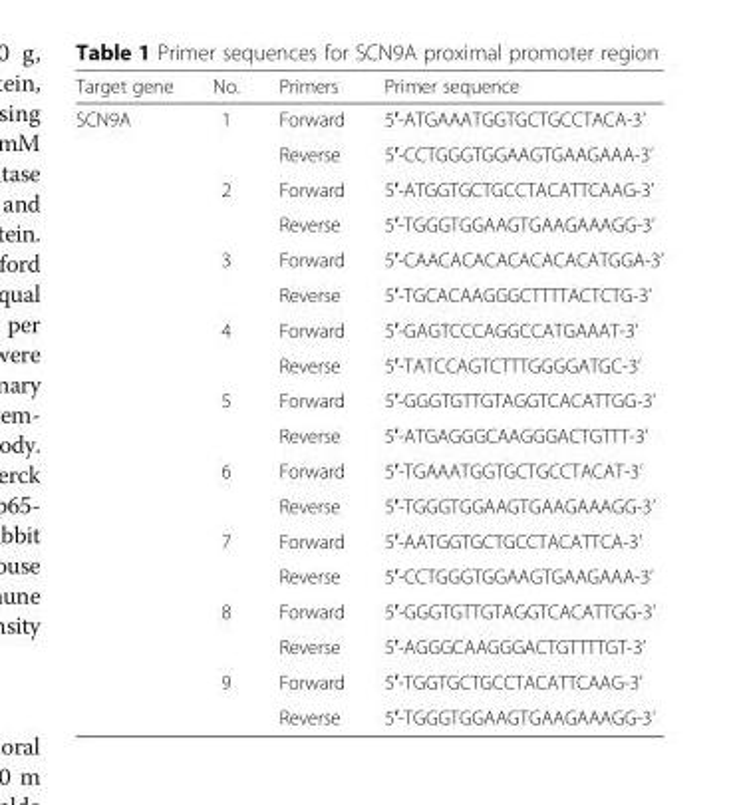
<table><thead><tr><td>Target gene</td><td>No.</td><td>Primers</td><td>Primer sequence</td></tr></thead><tbody><tr><td rowspan="18">SCN9A</td><td rowspan="2">1</td><td>Forward</td><td>5′-ATGAAATGGTGCTGCCTACA-3’</td></tr><tr><td>Reverse</td><td>5′-CCTGGGTGGAAGTGAAGAAA-3’</td></tr><tr><td rowspan="2">2</td><td>Forward</td><td>5′-ATGGTGCTGCCTACATTCAAG-3’</td></tr><tr><td>Reverse</td><td>5′-TGGGTGGAAGTGAAGAAAGG-3’</td></tr><tr><td rowspan="2">3</td><td>Forward</td><td>5′-CAACACACACACACACATGGA-3’</td></tr><tr><td>Reverse</td><td>5′-TGCACAAGGGCTTTTACTCTG-3’</td></tr><tr><td rowspan="2">4</td><td>Forward</td><td>5′-GAGTCCCAGGCCATGAAAT-3’</td></tr><tr><td>Reverse</td><td>5′-TATCCAGTCTTTGGGGATGC-3’</td></tr><tr><td rowspan="2">5</td><td>Forward</td><td>5′-GGGTGTTGTAGGTCACATTGG-3’</td></tr><tr><td>Reverse</td><td>5′-ATGAGGGCAAGGGACTGTTT-3’</td></tr><tr><td rowspan="2">6</td><td>Forward</td><td>5′-TGAAATGGTGCTGCCTACAT-3’</td></tr><tr><td>Reverse</td><td>5′-TGGGTGGAAGTGAAGAAAGG-3’</td></tr><tr><td rowspan="2">7</td><td>Forward</td><td>5′-AATGGTGCTGCCTACATTCA-3’</td></tr><tr><td>Reverse</td><td>5′-CCTGGGTGGAAGTGAAGAAA-3’</td></tr><tr><td rowspan="2">8</td><td>Forward</td><td>5′-GGGTGTTGTAGGTCACATTGG-3’</td></tr><tr><td>Reverse</td><td>5′-AGGGCAAGGGACTGTTTTGT-3’</td></tr><tr><td rowspan="2">9</td><td>Forward</td><td>5′-TGGTGCTGCCTACATTCAAG-3’</td></tr><tr><td>Reverse</td><td>5′-TGGGTGGAAGTGAAGAAAGG-3’</td></tr></tbody></table>